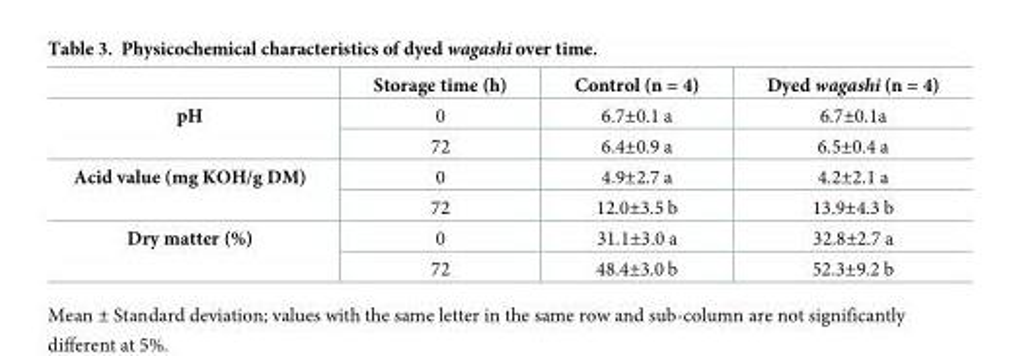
<table><thead><tr><td></td><td>Storage time (h)</td><td>Control (n = 4)</td><td>Dyed wagashi (n = 4)</td></tr></thead><tbody><tr><td rowspan="2">pH</td><td>0</td><td>6.7±0.1 a</td><td>6.7±0.1a</td></tr><tr><td>72</td><td>6.4±0.9 a</td><td>6.5±0.4 a</td></tr><tr><td rowspan="2">Acid value (mg KOH/g DM)</td><td>0</td><td>4.9±2.7 a</td><td>4.2±2.1 a</td></tr><tr><td>72</td><td>12.0±3.5 b</td><td>13.9±4.3 b</td></tr><tr><td rowspan="2">Dry matter (%)</td><td>0</td><td>31.1±3.0 a</td><td>32.8±2.7 a</td></tr><tr><td>72</td><td>48.4±3.0 b</td><td>52.3±9.2 b</td></tr></tbody></table>